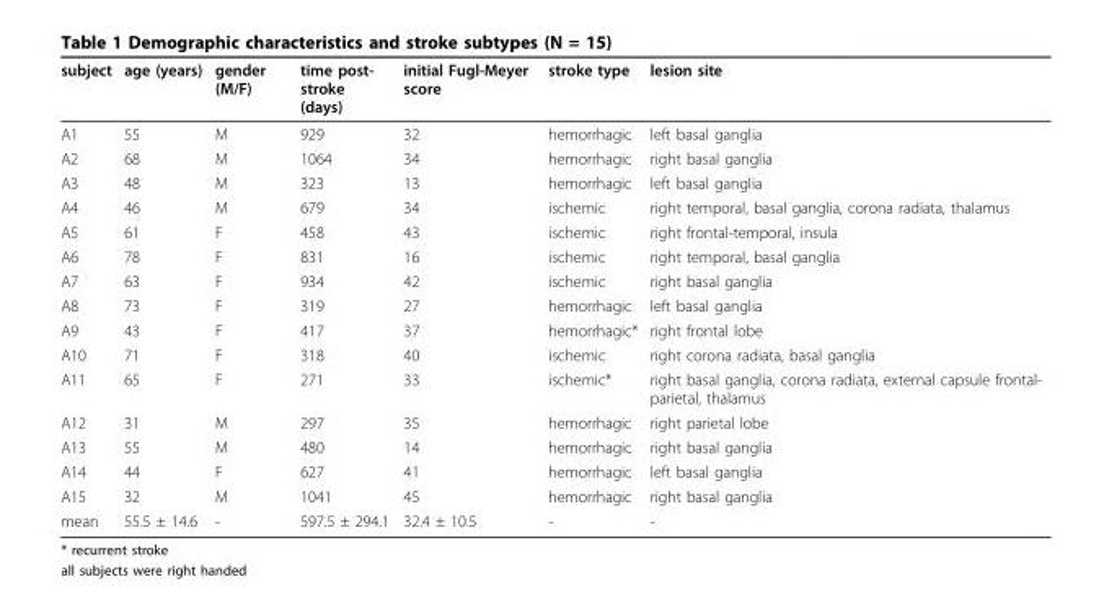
<table><thead><tr><td>subject</td><td>age (years)</td><td>gender (M/F)</td><td>time post- stroke (days)</td><td>initial Fugl-Meyer score</td><td>stroke type</td><td>lesion site</td></tr></thead><tbody><tr><td>A1</td><td>55</td><td>M</td><td>929</td><td>32</td><td>hemorrhagic</td><td>left basal ganglia</td></tr><tr><td>A2</td><td>68</td><td>M</td><td>1064</td><td>34</td><td>hemorrhagic</td><td>right basal ganglia</td></tr><tr><td>A3</td><td>48</td><td>M</td><td>323</td><td>13</td><td>hemorrhagic</td><td>left basal ganglia</td></tr><tr><td>A4</td><td>46</td><td>M</td><td>679</td><td>34</td><td>ischemic</td><td>right temporal, basal ganglia, corona radiata, thalamus</td></tr><tr><td>A5</td><td>61</td><td>F</td><td>458</td><td>43</td><td>ischemic</td><td>right frontal-temporal, insula</td></tr><tr><td>A6</td><td>78</td><td>F</td><td>831</td><td>16</td><td>ischemic</td><td>right temporal, basal ganglia</td></tr><tr><td>A7</td><td>63</td><td>F</td><td>934</td><td>42</td><td>ischemic</td><td>right basal ganglia</td></tr><tr><td>A8</td><td>73</td><td>F</td><td>319</td><td>27</td><td>hemorrhagic</td><td>left basal ganglia</td></tr><tr><td>A9</td><td>43</td><td>F</td><td>417</td><td>37</td><td>hemorrhagic*</td><td>right frontal lobe</td></tr><tr><td>A10</td><td>71</td><td>F</td><td>318</td><td>40</td><td>ischemic</td><td>right corona radiata, basal ganglia</td></tr><tr><td>A11</td><td>65</td><td>F</td><td>271</td><td>33</td><td>ischemic*</td><td>right basal ganglia, corona radiata, external capsule frontal- parietal, thalamus</td></tr><tr><td>A12</td><td>31</td><td>M</td><td>297</td><td>35</td><td>hemorrhagic</td><td>right parietal lobe</td></tr><tr><td>A13</td><td>55</td><td>M</td><td>480</td><td>14</td><td>hemorrhagic</td><td>right basal ganglia</td></tr><tr><td>A14</td><td>44</td><td>F</td><td>627</td><td>41</td><td>hemorrhagic</td><td>left basal ganglia</td></tr><tr><td>A15</td><td>32</td><td>M</td><td>1041</td><td>45</td><td>hemorrhagic</td><td>right basal ganglia</td></tr><tr><td>mean</td><td>55.5 ± 14.6</td><td>-</td><td>597.5 ± 294.1</td><td>32.4 ± 10.5</td><td>-</td><td>-</td></tr></tbody></table>